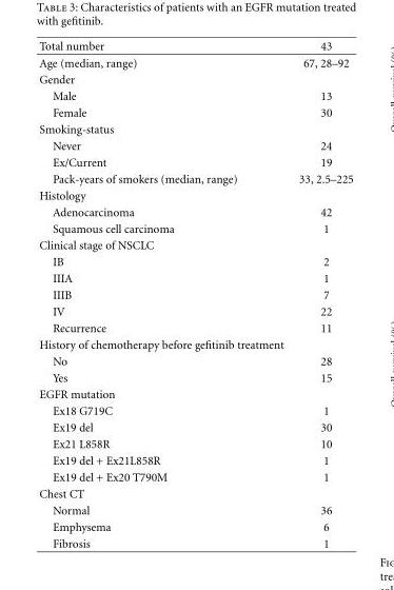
<table><thead><tr><td>Total number</td><td>43</td></tr></thead><tbody><tr><td>Age (median, range)</td><td>67, 28–92</td></tr><tr><td colspan="2">Gender</td></tr><tr><td>Male</td><td>13</td></tr><tr><td>Female</td><td>30</td></tr><tr><td colspan="2">Smoking-status</td></tr><tr><td>Never</td><td>24</td></tr><tr><td>Ex/Current</td><td>19</td></tr><tr><td>Pack-years of smokers (median, range)</td><td>33, 2.5–225</td></tr><tr><td colspan="2">Histology</td></tr><tr><td>Adenocarcinoma</td><td>42</td></tr><tr><td>Squamous cell carcinoma</td><td>1</td></tr><tr><td colspan="2">Clinical stage of NSCLC</td></tr><tr><td>IB</td><td>2</td></tr><tr><td>IIIA</td><td>1</td></tr><tr><td>IIIB</td><td>7</td></tr><tr><td>IV</td><td>22</td></tr><tr><td>Recurrence</td><td>11</td></tr><tr><td colspan="2">History of chemotherapy before gefitinib treatment</td></tr><tr><td>No</td><td>28</td></tr><tr><td>Yes</td><td>15</td></tr><tr><td colspan="2">EGFR mutation</td></tr><tr><td>Ex18 G719C</td><td>1</td></tr><tr><td>Ex19 del</td><td>30</td></tr><tr><td>Ex21 L858R</td><td>10</td></tr><tr><td>Ex19 del + Ex21L858R</td><td>1</td></tr><tr><td>Ex19 del + Ex20 T790M</td><td>1</td></tr><tr><td colspan="2">Chest CT</td></tr><tr><td>Normal</td><td>36</td></tr><tr><td>Emphysema</td><td>6</td></tr><tr><td>Fibrosis</td><td>1</td></tr></tbody></table>